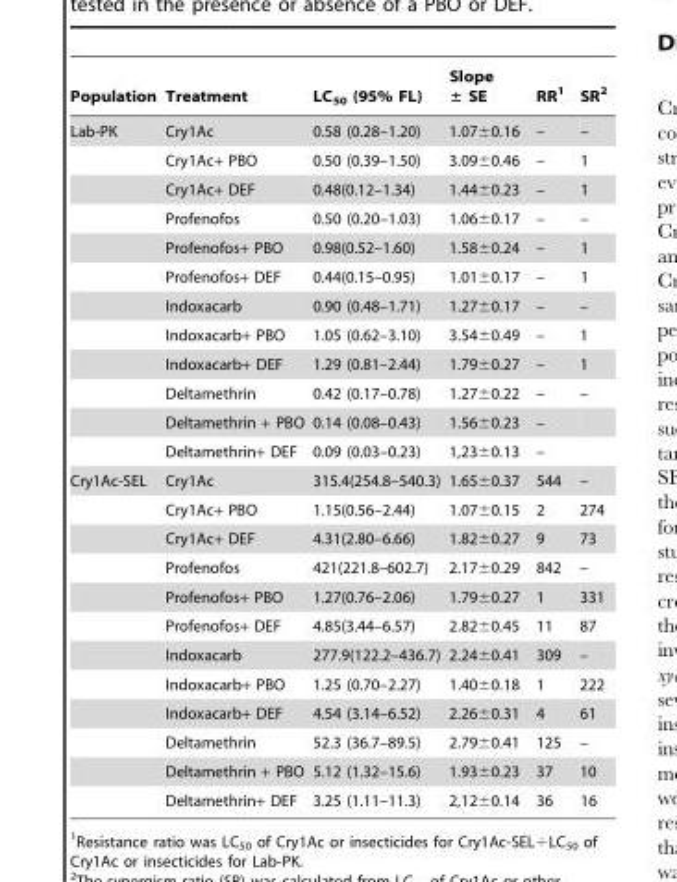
<table><thead><tr><td>Population</td><td>Treatment</td><td>LC<sub>50</sub> (95% FL)</td><td>Slope ± SE</td><td>RR<sup>1</sup></td><td>SR<sup>2</sup></td></tr></thead><tbody><tr><td rowspan="12">Lab-PK</td><td>Cry1Ac</td><td>0.58 (0.28–1.20)</td><td>1.07±0.16</td><td>–</td><td>–</td></tr><tr><td>Cry1Ac+ PBO</td><td>0.50 (0.39–1.50)</td><td>3.09±0.46</td><td>–</td><td>1</td></tr><tr><td>Cry1Ac+ DEF</td><td>0.48(0.12–1.34)</td><td>1.44±0.23</td><td>–</td><td>1</td></tr><tr><td>Profenofos</td><td>0.50 (0.20–1.03)</td><td>1.06±0.17</td><td>–</td><td>–</td></tr><tr><td>Profenofos+ PBO</td><td>0.98(0.52–1.60)</td><td>1.58±0.24</td><td>–</td><td>1</td></tr><tr><td>Profenofos+ DEF</td><td>0.44(0.15–0.95)</td><td>1.01±0.17</td><td>–</td><td>1</td></tr><tr><td>Indoxacarb</td><td>0.90 (0.48–1.71)</td><td>1.27±0.17</td><td>–</td><td>–</td></tr><tr><td>Indoxacarb+ PBO</td><td>1.05 (0.62–3.10)</td><td>3.54±0.49</td><td>–</td><td>1</td></tr><tr><td>Indoxacarb+ DEF</td><td>1.29 (0.81–2.44)</td><td>1.79±0.27</td><td>–</td><td>1</td></tr><tr><td>Deltamethrin</td><td>0.42 (0.17–0.78)</td><td>1.27±0.22</td><td>–</td><td>–</td></tr><tr><td>Deltamethrin + PBO</td><td>0.14 (0.08–0.43)</td><td>1.56±0.23</td><td>–</td><td></td></tr><tr><td>Deltamethrin+ DEF</td><td>0.09 (0.03–0.23)</td><td>1,23±0.13</td><td>–</td><td></td></tr><tr><td rowspan="12">Cry1Ac-SEL</td><td>Cry1Ac</td><td>315.4(254.8–540.3)</td><td>1.65±0.37</td><td>544</td><td>–</td></tr><tr><td>Cry1Ac+ PBO</td><td>1.15(0.56–2.44)</td><td>1.07±0.15</td><td>2</td><td>274</td></tr><tr><td>Cry1Ac+ DEF</td><td>4.31(2.80–6.66)</td><td>1.82±0.27</td><td>9</td><td>73</td></tr><tr><td>Profenofos</td><td>421(221.8–602.7)</td><td>2.17±0.29</td><td>842</td><td>–</td></tr><tr><td>Profenofos+ PBO</td><td>1.27(0.76–2.06)</td><td>1.79±0.27</td><td>1</td><td>331</td></tr><tr><td>Profenofos+ DEF</td><td>4.85(3.44–6.57)</td><td>2.82±0.45</td><td>11</td><td>87</td></tr><tr><td>Indoxacarb</td><td>277.9(122.2–436.7)</td><td>2.24±0.41</td><td>309</td><td>–</td></tr><tr><td>Indoxacarb+ PBO</td><td>1.25 (0.70–2.27)</td><td>1.40±0.18</td><td>1</td><td>222</td></tr><tr><td>Indoxacarb+ DEF</td><td>4.54 (3.14–6.52)</td><td>2.26±0.31</td><td>4</td><td>61</td></tr><tr><td>Deltamethrin</td><td>52.3 (36.7–89.5)</td><td>2.79±0.41</td><td>125</td><td>–</td></tr><tr><td>Deltamethrin + PBO</td><td>5.12 (1.32–15.6)</td><td>1.93±0.23</td><td>37</td><td>10</td></tr><tr><td>Deltamethrin+ DEF</td><td>3.25 (1.11–11.3)</td><td>2,12±0.14</td><td>36</td><td>16</td></tr></tbody></table>